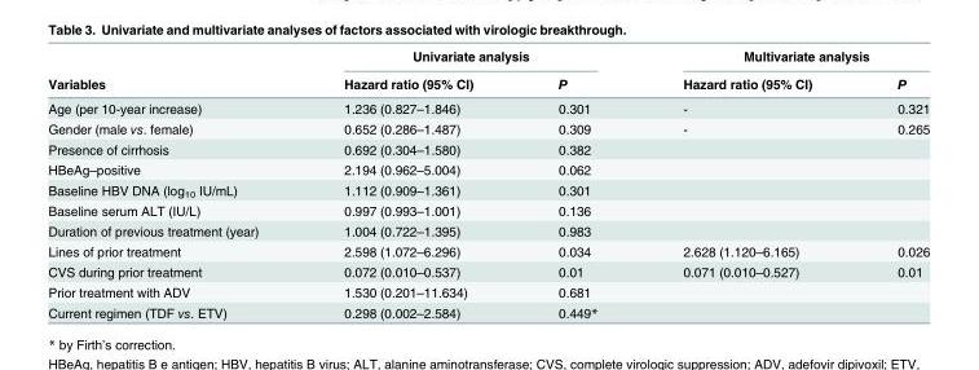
<table><thead><tr><td rowspan="2">Variables</td><td colspan="2">Univariate analysis</td><td colspan="2">Multivariate analysis</td></tr><tr><td>Hazard ratio (95% CI)</td><td>P</td><td>Hazard ratio (95% CI)</td><td>P</td></tr></thead><tbody><tr><td>Age (per 10-year increase)</td><td>1.236 (0.827–1.846)</td><td>0.301</td><td>-</td><td>0.321</td></tr><tr><td>Gender (male vs. female)</td><td>0.652 (0.286–1.487)</td><td>0.309</td><td>-</td><td>0.265</td></tr><tr><td>Presence of cirrhosis</td><td>0.692 (0.304–1.580)</td><td>0.382</td><td></td><td></td></tr><tr><td>HBeAg–positive</td><td>2.194 (0.962–5.004)</td><td>0.062</td><td></td><td></td></tr><tr><td>Baseline HBV DNA (log<sub>10</sub> IU/mL)</td><td>1.112 (0.909–1.361)</td><td>0.301</td><td></td><td></td></tr><tr><td>Baseline serum ALT (IU/L)</td><td>0.997 (0.993–1.001)</td><td>0.136</td><td></td><td></td></tr><tr><td>Duration of previous treatment (year)</td><td>1.004 (0.722–1.395)</td><td>0.983</td><td></td><td></td></tr><tr><td>Lines of prior treatment</td><td>2.598 (1.072–6.296)</td><td>0.034</td><td>2.628 (1.120–6.165)</td><td>0.026</td></tr><tr><td>CVS during prior treatment</td><td>0.072 (0.010–0.537)</td><td>0.01</td><td>0.071 (0.010–0.527)</td><td>0.01</td></tr><tr><td>Prior treatment with ADV</td><td>1.530 (0.201–11.634)</td><td>0.681</td><td></td><td></td></tr><tr><td>Current regimen (TDF vs. ETV)</td><td>0.298 (0.002–2.584)</td><td>0.449*</td><td></td><td></td></tr></tbody></table>